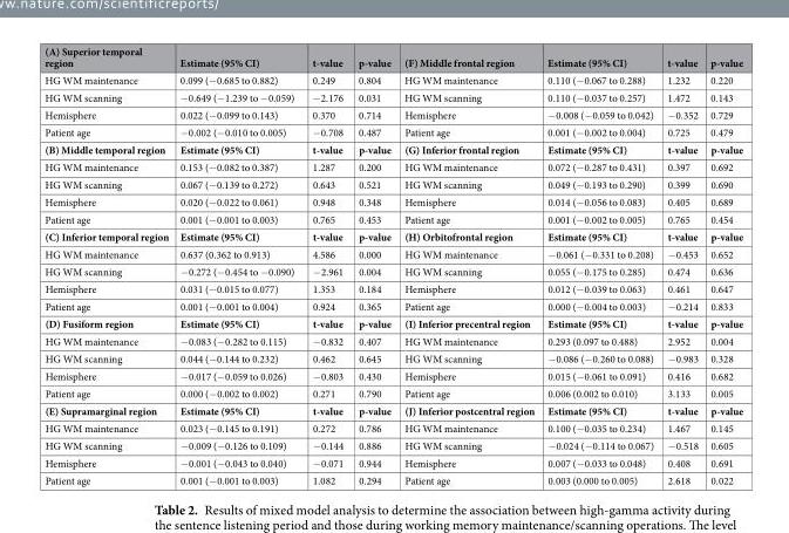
<table><thead><tr><td>(A) Superior temporal region</td><td>Estimate (95% CI)</td><td>t-value</td><td>p-value</td><td>(F) Middle frontal region</td><td>Estimate (95% CI)</td><td>t-value</td><td>p-value</td></tr></thead><tbody><tr><td>HG WM maintenance</td><td>0.099 (−0.685 to 0.882)</td><td>0.249</td><td>0.804</td><td>HG WM maintenance</td><td>0.110 (−0.067 to 0.288)</td><td>1.232</td><td>0.220</td></tr><tr><td>HG WM scanning</td><td>−0.649 (−1.239 to −0.059)</td><td>−2.176</td><td>0.031</td><td>HG WM scanning</td><td>0.110 (−0.037 to 0.257)</td><td>1.472</td><td>0.143</td></tr><tr><td>Hemisphere</td><td>0.022 (−0.099 to 0.143)</td><td>0.370</td><td>0.714</td><td>Hemisphere</td><td>−0.008 (−0.059 to 0.042)</td><td>−0.352</td><td>0.729</td></tr><tr><td>Patient age</td><td>−0.002 (−0.010 to 0.005)</td><td>−0.708</td><td>0.487</td><td>Patient age</td><td>0.001 (−0.002 to 0.004)</td><td>0.725</td><td>0.479</td></tr><tr><td>(B) Middle temporal region</td><td>Estimate (95% CI)</td><td>t-value</td><td>p-value</td><td>(G) Inferior frontal region</td><td>Estimate (95% CI)</td><td>t-value</td><td>p-value</td></tr><tr><td>HG WM maintenance</td><td>0.153 (−0.082 to 0.387)</td><td>1.287</td><td>0.200</td><td>HG WM maintenance</td><td>0.072 (−0.287 to 0.431)</td><td>0.397</td><td>0.692</td></tr><tr><td>HG WM scanning</td><td>0.067 (−0.139 to 0.272)</td><td>0.643</td><td>0.521</td><td>HG WM scanning</td><td>0.049 (−0.193 to 0.290)</td><td>0.399</td><td>0.690</td></tr><tr><td>Hemisphere</td><td>0.020 (−0.022 to 0.061)</td><td>0.948</td><td>0.348</td><td>Hemisphere</td><td>0.014 (−0.056 to 0.083)</td><td>0.405</td><td>0.689</td></tr><tr><td>Patient age</td><td>0.001 (−0.001 to 0.003)</td><td>0.765</td><td>0.453</td><td>Patient age</td><td>0.001 (−0.002 to 0.005)</td><td>0.765</td><td>0.454</td></tr><tr><td>(C) Inferior temporal region</td><td>Estimate (95% CI)</td><td>t-value</td><td>p-value</td><td>(H) Orbitofrontal region</td><td>Estimate (95% CI)</td><td>t-value</td><td>p-value</td></tr><tr><td>HG WM maintenance</td><td>0.637 (0.362 to 0.913)</td><td>4.586</td><td>0.000</td><td>HG WM maintenance</td><td>−0.061 (−0.331 to 0.208)</td><td>−0.453</td><td>0.652</td></tr><tr><td>HG WM scanning</td><td>−0.272 (−0.454 to −0.090)</td><td>−2.961</td><td>0.004</td><td>HG WM scanning</td><td>0.055 (−0.175 to 0.285)</td><td>0.474</td><td>0.636</td></tr><tr><td>Hemisphere</td><td>0.031 (−0.015 to 0.077)</td><td>1.353</td><td>0.184</td><td>Hemisphere</td><td>0.012 (−0.039 to 0.063)</td><td>0.461</td><td>0.647</td></tr><tr><td>Patient age</td><td>0.001 (−0.001 to 0.004)</td><td>0.924</td><td>0.365</td><td>Patient age</td><td>0.000 (−0.004 to 0.003)</td><td>−0.214</td><td>0.833</td></tr><tr><td>(D) Fusiform region</td><td>Estimate (95% CI)</td><td>t-value</td><td>p-value</td><td>(I) Inferior precentral region</td><td>Estimate (95% CI)</td><td>t-value</td><td>p-value</td></tr><tr><td>HG WM maintenance</td><td>−0.083 (−0.282 to 0.115)</td><td>−0.832</td><td>0.407</td><td>HG WM maintenance</td><td>0.293 (0.097 to 0.488)</td><td>2.952</td><td>0.004</td></tr><tr><td>HG WM scanning</td><td>0.044 (−0.144 to 0.232)</td><td>0.462</td><td>0.645</td><td>HG WM scanning</td><td>−0.086 (−0.260 to 0.088)</td><td>−0.983</td><td>0.328</td></tr><tr><td>Hemisphere</td><td>−0.017 (−0.059 to 0.026)</td><td>−0.803</td><td>0.430</td><td>Hemisphere</td><td>0.015 (−0.061 to 0.091)</td><td>0.416</td><td>0.682</td></tr><tr><td>Patient age</td><td>0.000 (−0.002 to 0.002)</td><td>0.271</td><td>0.790</td><td>Patient age</td><td>0.006 (0.002 to 0.010)</td><td>3.133</td><td>0.005</td></tr><tr><td>(E) Supramarginal region</td><td>Estimate (95% CI)</td><td>t-value</td><td>p-value</td><td>(J) Inferior postcentral region</td><td>Estimate (95% CI)</td><td>t-value</td><td>p-value</td></tr><tr><td>HG WM maintenance</td><td>0.023 (−0.145 to 0.191)</td><td>0.272</td><td>0.786</td><td>HG WM maintenance</td><td>0.100 (−0.035 to 0.234)</td><td>1.467</td><td>0.145</td></tr><tr><td>HG WM scanning</td><td>−0.009 (−0.126 to 0.109)</td><td>−0.144</td><td>0.886</td><td>HG WM scanning</td><td>−0.024 (−0.114 to 0.067)</td><td>−0.518</td><td>0.605</td></tr><tr><td>Hemisphere</td><td>−0.001 (−0.043 to 0.040)</td><td>−0.071</td><td>0.944</td><td>Hemisphere</td><td>0.007 (−0.033 to 0.048)</td><td>0.408</td><td>0.691</td></tr><tr><td>Patient age</td><td>0.001 (−0.001 to 0.003)</td><td>1.082</td><td>0.294</td><td>Patient age</td><td>0.003 (0.000 to 0.005)</td><td>2.618</td><td>0.022</td></tr></tbody></table>